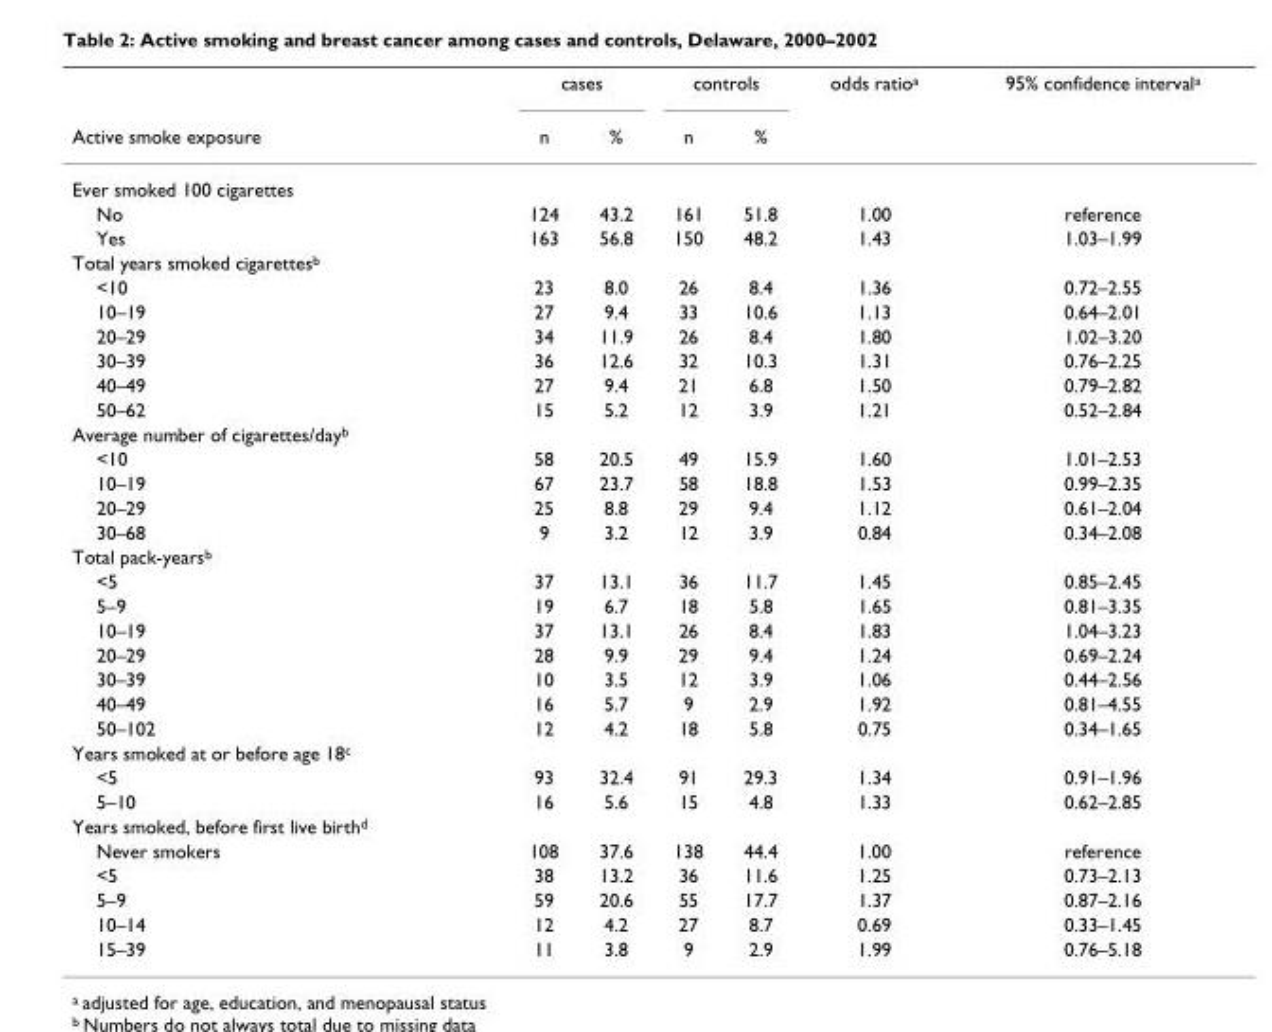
<table><thead><tr><td rowspan="2">Active smoke exposure</td><td colspan="2">cases</td><td colspan="2">controls</td><td rowspan="2">odds ratio<sup>a</sup></td><td rowspan="2">95% confidence interval<sup>a</sup></td></tr><tr><td>n</td><td>%</td><td>n</td><td>%</td></tr></thead><tbody><tr><td colspan="7">Ever smoked 100 cigarettes</td></tr><tr><td>No</td><td>124</td><td>43.2</td><td>161</td><td>51.8</td><td>1.00</td><td>reference</td></tr><tr><td>Yes</td><td>163</td><td>56.8</td><td>150</td><td>48.2</td><td>1.43</td><td>1.03–1.99</td></tr><tr><td colspan="7">Total years smoked cigarettes<sup>b</sup></td></tr><tr><td>&lt;10</td><td>23</td><td>8.0</td><td>26</td><td>8.4</td><td>1.36</td><td>0.72–2.55</td></tr><tr><td>10–19</td><td>27</td><td>9.4</td><td>33</td><td>10.6</td><td>1.13</td><td>0.64–2.01</td></tr><tr><td>20–29</td><td>34</td><td>11.9</td><td>26</td><td>8.4</td><td>1.80</td><td>1.02–3.20</td></tr><tr><td>30–39</td><td>36</td><td>12.6</td><td>32</td><td>10.3</td><td>1.31</td><td>0.76–2.25</td></tr><tr><td>40–49</td><td>27</td><td>9.4</td><td>21</td><td>6.8</td><td>1.50</td><td>0.79–2.82</td></tr><tr><td>50–62</td><td>15</td><td>5.2</td><td>12</td><td>3.9</td><td>1.21</td><td>0.52–2.84</td></tr><tr><td colspan="7">Average number of cigarettes/day<sup>b</sup></td></tr><tr><td>&lt;10</td><td>58</td><td>20.5</td><td>49</td><td>15.9</td><td>1.60</td><td>1.01–2.53</td></tr><tr><td>10–19</td><td>67</td><td>23.7</td><td>58</td><td>18.8</td><td>1.53</td><td>0.99–2.35</td></tr><tr><td>20–29</td><td>25</td><td>8.8</td><td>29</td><td>9.4</td><td>1.12</td><td>0.61–2.04</td></tr><tr><td>30–68</td><td>9</td><td>3.2</td><td>12</td><td>3.9</td><td>0.84</td><td>0.34–2.08</td></tr><tr><td colspan="7">Total pack-years<sup>b</sup></td></tr><tr><td>&lt;5</td><td>37</td><td>13.1</td><td>36</td><td>11.7</td><td>1.45</td><td>0.85–2.45</td></tr><tr><td>5–9</td><td>19</td><td>6.7</td><td>18</td><td>5.8</td><td>1.65</td><td>0.81–3.35</td></tr><tr><td>10–19</td><td>37</td><td>13.1</td><td>26</td><td>8.4</td><td>1.83</td><td>1.04–3.23</td></tr><tr><td>20–29</td><td>28</td><td>9.9</td><td>29</td><td>9.4</td><td>1.24</td><td>0.69–2.24</td></tr><tr><td>30–39</td><td>10</td><td>3.5</td><td>12</td><td>3.9</td><td>1.06</td><td>0.44–2.56</td></tr><tr><td>40–49</td><td>16</td><td>5.7</td><td>9</td><td>2.9</td><td>1.92</td><td>0.81–4.55</td></tr><tr><td>50–102</td><td>12</td><td>4.2</td><td>18</td><td>5.8</td><td>0.75</td><td>0.34–1.65</td></tr><tr><td colspan="7">Years smoked at or before age 18<sup>c</sup></td></tr><tr><td>&lt;5</td><td>93</td><td>32.4</td><td>91</td><td>29.3</td><td>1.34</td><td>0.91–1.96</td></tr><tr><td>5–10</td><td>16</td><td>5.6</td><td>15</td><td>4.8</td><td>1.33</td><td>0.62–2.85</td></tr><tr><td colspan="7">Years smoked, before first live birth<sup>d</sup></td></tr><tr><td>Never smokers</td><td>108</td><td>37.6</td><td>138</td><td>44.4</td><td>1.00</td><td>reference</td></tr><tr><td>&lt;5</td><td>38</td><td>13.2</td><td>36</td><td>11.6</td><td>1.25</td><td>0.73–2.13</td></tr><tr><td>5–9</td><td>59</td><td>20.6</td><td>55</td><td>17.7</td><td>1.37</td><td>0.87–2.16</td></tr><tr><td>10–14</td><td>12</td><td>4.2</td><td>27</td><td>8.7</td><td>0.69</td><td>0.33–1.45</td></tr><tr><td>15–39</td><td>11</td><td>3.8</td><td>9</td><td>2.9</td><td>1.99</td><td>0.76–5.18</td></tr></tbody></table>